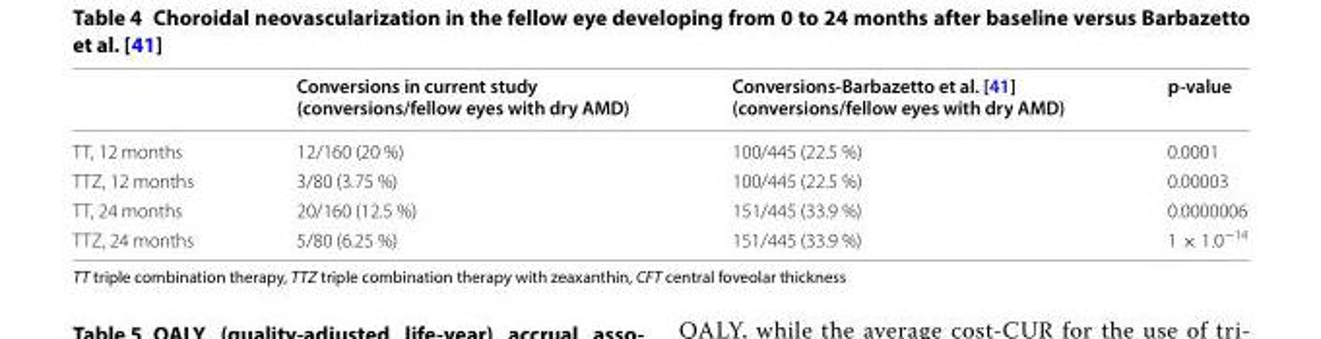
<table><thead><tr><td></td><td>Conversions in current study (conversions/fellow eyes with dry AMD)</td><td>Conversions-Barbazetto et al. [41] (conversions/fellow eyes with dry AMD)</td><td>p-value</td></tr></thead><tbody><tr><td>TT, 12 months</td><td>12/160 (20 %)</td><td>100/445 (22.5 %)</td><td>0.0001</td></tr><tr><td>TTZ, 12 months</td><td>3/80 (3.75 %)</td><td>100/445 (22.5 %)</td><td>0.00003</td></tr><tr><td>TT, 24 months</td><td>20/160 (12.5 %)</td><td>151/445 (33.9 %)</td><td>0.0000006</td></tr><tr><td>TTZ, 24 months</td><td>5/80 (6.25 %)</td><td>151/445 (33.9 %)</td><td>1 × 1.0<sup>−14</sup></td></tr></tbody></table>